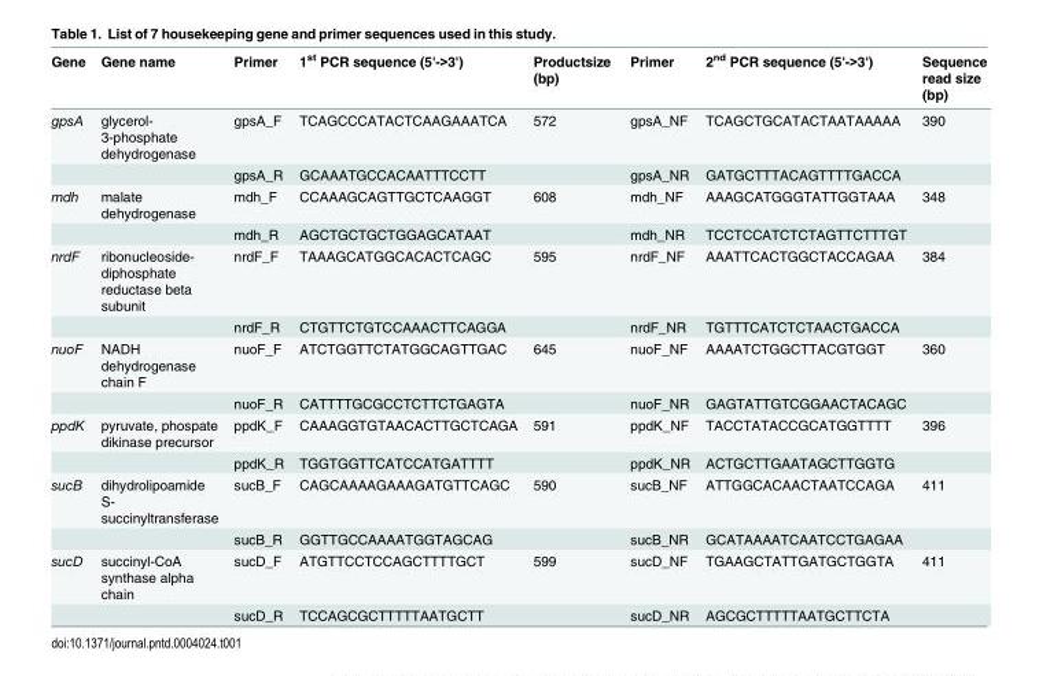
<table><thead><tr><td>Gene</td><td>Gene name</td><td>Primer</td><td>1<sup>st</sup> PCR sequence (5&#x27;-&gt;3&#x27;)</td><td>Productsize (bp)</td><td>Primer</td><td>2<sup>nd</sup> PCR sequence (5&#x27;-&gt;3&#x27;)</td><td>Sequence read size (bp)</td></tr></thead><tbody><tr><td rowspan="2">gpsA</td><td>glycerol- 3-phosphate dehydrogenase</td><td>gpsA_F</td><td>TCAGCCCATACTCAAGAAATCA</td><td>572</td><td>gpsA_NF</td><td>TCAGCTGCATACTAATAAAAA</td><td>390</td></tr><tr><td></td><td>gpsA_R</td><td>GCAAATGCCACAATTTCCTT</td><td></td><td>gpsA_NR</td><td>GATGCTTTACAGTTTTGACCA</td><td></td></tr><tr><td rowspan="2">mdh</td><td>malate dehydrogenase</td><td>mdh_F</td><td>CCAAAGCAGTTGCTCAAGGT</td><td>608</td><td>mdh_NF</td><td>AAAGCATGGGTATTGGTAAA</td><td>348</td></tr><tr><td></td><td>mdh_R</td><td>AGCTGCTGCTGGAGCATAAT</td><td></td><td>mdh_NR</td><td>TCCTCCATCTCTAGTTCTTTGT</td><td></td></tr><tr><td rowspan="2">nrdF</td><td>ribonucleoside- diphosphate reductase beta subunit</td><td>nrdF_F</td><td>TAAAGCATGGCACACTCAGC</td><td>595</td><td>nrdF_NF</td><td>AAATTCACTGGCTACCAGAA</td><td>384</td></tr><tr><td></td><td>nrdF_R</td><td>CTGTTCTGTCCAAACTTCAGGA</td><td></td><td>nrdF_NR</td><td>TGTTTCATCTCTAACTGACCA</td><td></td></tr><tr><td rowspan="2">nuoF</td><td>NADH dehydrogenase chain F</td><td>nuoF_F</td><td>ATCTGGTTCTATGGCAGTTGAC</td><td>645</td><td>nuoF_NF</td><td>AAAATCTGGCTTACGTGGT</td><td>360</td></tr><tr><td></td><td>nuoF_R</td><td>CATTTTGCGCCTCTTCTGAGTA</td><td></td><td>nuoF_NR</td><td>GAGTATTGTCGGAACTACAGC</td><td></td></tr><tr><td rowspan="2">ppdK</td><td>pyruvate, phospate dikinase precursor</td><td>ppdK_F</td><td>CAAAGGTGTAACACTTGCTCAGA</td><td>591</td><td>ppdK_NF</td><td>TACCTATACCGCATGGTTTT</td><td>396</td></tr><tr><td></td><td>ppdK_R</td><td>TGGTGGTTCATCCATGATTTT</td><td></td><td>ppdK_NR</td><td>ACTGCTTGAATAGCTTGGTG</td><td></td></tr><tr><td rowspan="2">sucB</td><td>dihydrolipoamide S- succinyltransferase</td><td>sucB_F</td><td>CAGCAAAAGAAAGATGTTCAGC</td><td>590</td><td>sucB_NF</td><td>ATTGGCACAACTAATCCAGA</td><td>411</td></tr><tr><td></td><td>sucB_R</td><td>GGTTGCCAAAATGGTAGCAG</td><td></td><td>sucB_NR</td><td>GCATAAAATCAATCCTGAGAA</td><td></td></tr><tr><td rowspan="2">sucD</td><td>succinyl-CoA synthase alpha chain</td><td>sucD_F</td><td>ATGTTCCTCCAGCTTTTGCT</td><td>599</td><td>sucD_NF</td><td>TGAAGCTATTGATGCTGGTA</td><td>411</td></tr><tr><td></td><td>sucD_R</td><td>TCCAGCGCTTTTTAATGCTT</td><td></td><td>sucD_NR</td><td>AGCGCTTTTTAATGCTTCTA</td><td></td></tr></tbody></table>